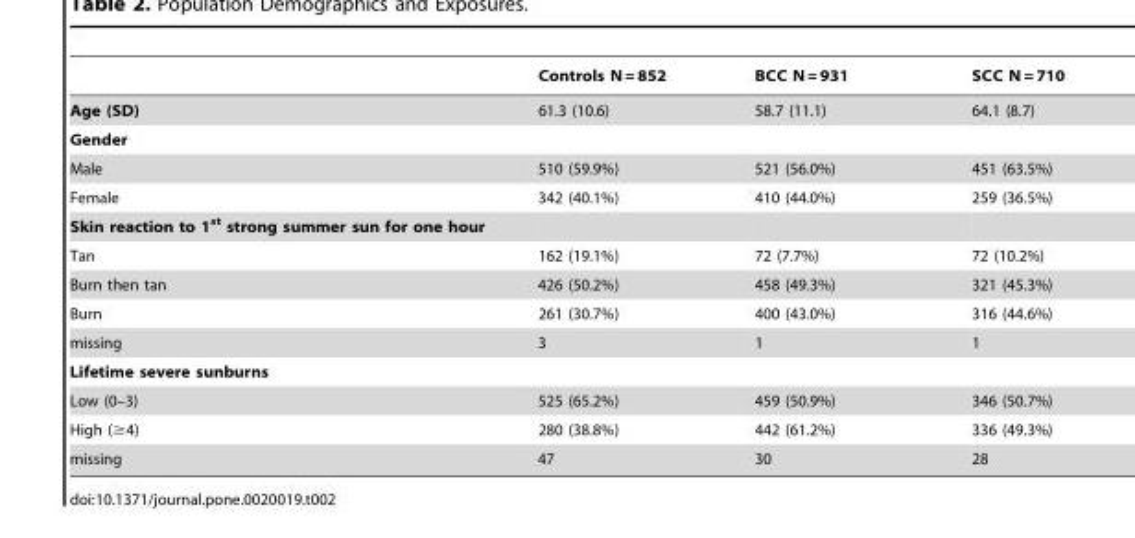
<table><thead><tr><td></td><td>Controls N = 852</td><td>BCC N = 931</td><td>SCC N = 710</td></tr></thead><tbody><tr><td>Age (SD)</td><td>61.3 (10.6)</td><td>58.7 (11.1)</td><td>64.1 (8.7)</td></tr><tr><td colspan="4">Gender</td></tr><tr><td>Male</td><td>510 (59.9%)</td><td>521 (56.0%)</td><td>451 (63.5%)</td></tr><tr><td>Female</td><td>342 (40.1%)</td><td>410 (44.0%)</td><td>259 (36.5%)</td></tr><tr><td colspan="4">Skin reaction to 1<sup>st</sup> strong summer sun for one hour</td></tr><tr><td>Tan</td><td>162 (19.1%)</td><td>72 (7.7%)</td><td>72 (10.2%)</td></tr><tr><td>Burn then tan</td><td>426 (50.2%)</td><td>458 (49.3%)</td><td>321 (45.3%)</td></tr><tr><td>Burn</td><td>261 (30.7%)</td><td>400 (43.0%)</td><td>316 (44.6%)</td></tr><tr><td>missing</td><td>3</td><td>1</td><td>1</td></tr><tr><td colspan="4">Lifetime severe sunburns</td></tr><tr><td>Low (0–3)</td><td>525 (65.2%)</td><td>459 (50.9%)</td><td>346 (50.7%)</td></tr><tr><td>High (≥4)</td><td>280 (38.8%)</td><td>442 (61.2%)</td><td>336 (49.3%)</td></tr><tr><td>missing</td><td>47</td><td>30</td><td>28</td></tr></tbody></table>